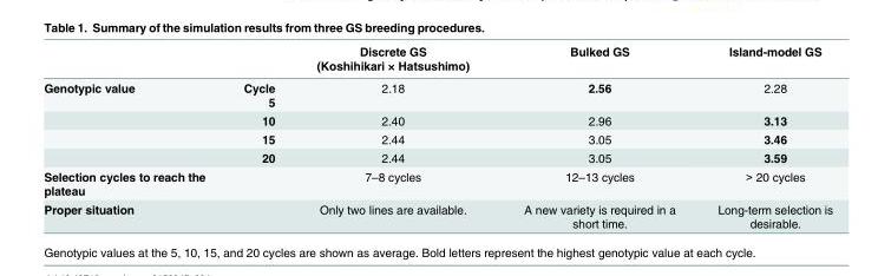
<table><thead><tr><td></td><td></td><td>Discrete GS (Koshihikari × Hatsushimo)</td><td>Bulked GS</td><td>Island-model GS</td></tr></thead><tbody><tr><td rowspan="4">Genotypic value</td><td>Cycle 5</td><td>2.18</td><td>2.56</td><td>2.28</td></tr><tr><td>10</td><td>2.40</td><td>2.96</td><td>3.13</td></tr><tr><td>15</td><td>2.44</td><td>3.05</td><td>3.46</td></tr><tr><td>20</td><td>2.44</td><td>3.05</td><td>3.59</td></tr><tr><td>Selection cycles to reach the plateau</td><td></td><td>7–8 cycles</td><td>12–13 cycles</td><td>&gt; 20 cycles</td></tr><tr><td>Proper situation</td><td></td><td>Only two lines are available.</td><td>A new variety is required in a short time.</td><td>Long-term selection is desirable.</td></tr></tbody></table>